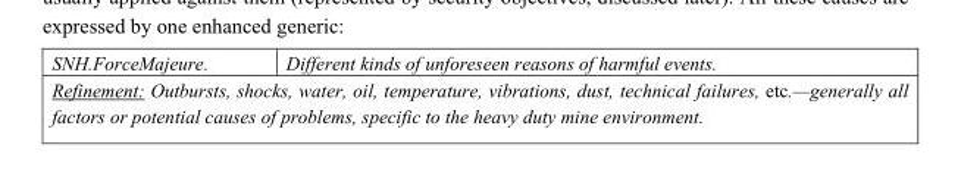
<table><tbody><tr><td>SNH.ForceMajeure.</td><td>Different kinds of unforeseen reasons of harmful events.</td></tr><tr><td colspan="2">Refinement: Outbursts, shocks, water, oil, temperature, vibrations, dust, technical failures, etc.—generally all factors or potential causes of problems, specific to the heavy duty mine environment.</td></tr></tbody></table>